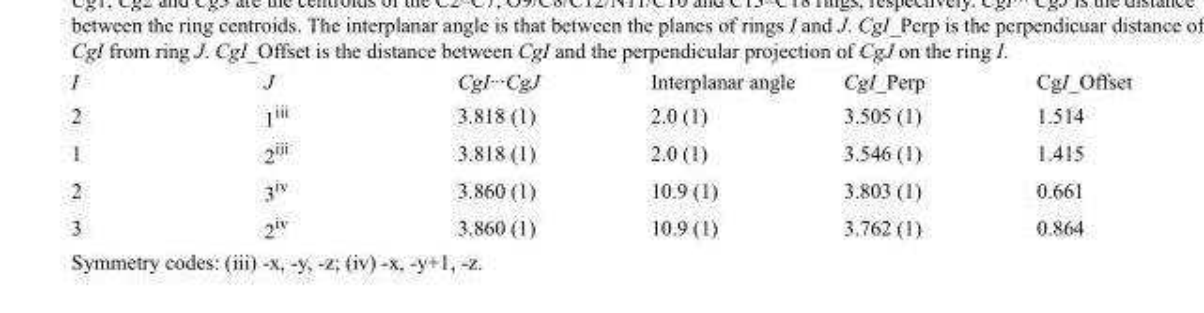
<table><thead><tr><td>I</td><td>J</td><td>CgI···CgJ</td><td>Interplanar angle</td><td>CgI_Perp</td><td>CgI_Offset</td></tr></thead><tbody><tr><td>2</td><td>1<sup>iii</sup></td><td>3.818 (1)</td><td>2.0 (1)</td><td>3.505 (1)</td><td>1.514</td></tr><tr><td>1</td><td>2<sup>iii</sup></td><td>3.818 (1)</td><td>2.0 (1)</td><td>3.546 (1)</td><td>1.415</td></tr><tr><td>2</td><td>3<sup>iv</sup></td><td>3.860 (1)</td><td>10.9 (1)</td><td>3.803 (1)</td><td>0.661</td></tr><tr><td>3</td><td>2<sup>iv</sup></td><td>3.860 (1)</td><td>10.9 (1)</td><td>3.762 (1)</td><td>0.864</td></tr></tbody></table>